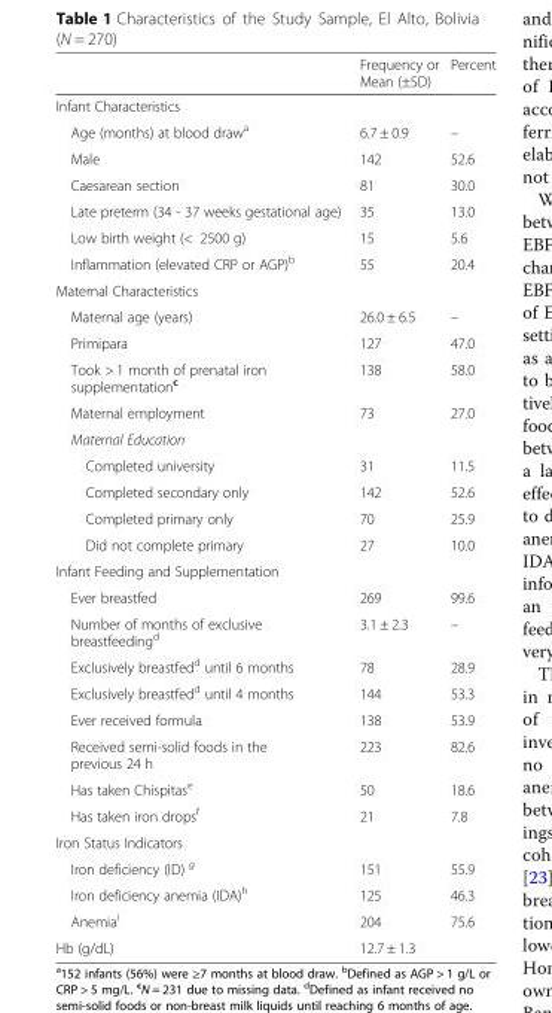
<table><thead><tr><td></td><td>Frequency or Mean (±SD)</td><td>Percent</td></tr></thead><tbody><tr><td colspan="3">Infant Characteristics</td></tr><tr><td>Age (months) at blood draw<sup>a</sup></td><td>6.7 ± 0.9</td><td>–</td></tr><tr><td>Male</td><td>142</td><td>52.6</td></tr><tr><td>Caesarean section</td><td>81</td><td>30.0</td></tr><tr><td>Late preterm (34 - 37 weeks gestational age)</td><td>35</td><td>13.0</td></tr><tr><td>Low birth weight (&lt; 2500 g)</td><td>15</td><td>5.6</td></tr><tr><td>Inflammation (elevated CRP or AGP)<sup>b</sup></td><td>55</td><td>20.4</td></tr><tr><td colspan="3">Maternal Characteristics</td></tr><tr><td>Maternal age (years)</td><td>26.0 ± 6.5</td><td>–</td></tr><tr><td>Primipara</td><td>127</td><td>47.0</td></tr><tr><td>Took &gt; 1 month of prenatal iron supplementation<sup>c</sup></td><td>138</td><td>58.0</td></tr><tr><td>Maternal employment</td><td>73</td><td>27.0</td></tr><tr><td colspan="3">Maternal Education</td></tr><tr><td>Completed university</td><td>31</td><td>11.5</td></tr><tr><td>Completed secondary only</td><td>142</td><td>52.6</td></tr><tr><td>Completed primary only</td><td>70</td><td>25.9</td></tr><tr><td>Did not complete primary</td><td>27</td><td>10.0</td></tr><tr><td colspan="3">Infant Feeding and Supplementation</td></tr><tr><td>Ever breastfed</td><td>269</td><td>99.6</td></tr><tr><td>Number of months of exclusive breastfeeding<sup>d</sup></td><td>3.1 ± 2.3</td><td>–</td></tr><tr><td>Exclusively breastfed<sup>d</sup> until 6 months</td><td>78</td><td>28.9</td></tr><tr><td>Exclusively breastfed<sup>d</sup> until 4 months</td><td>144</td><td>53.3</td></tr><tr><td>Ever received formula</td><td>138</td><td>53.9</td></tr><tr><td>Received semi-solid foods in the previous 24 h</td><td>223</td><td>82.6</td></tr><tr><td>Has taken Chispitas<sup>e</sup></td><td>50</td><td>18.6</td></tr><tr><td>Has taken iron drops<sup>f</sup></td><td>21</td><td>7.8</td></tr><tr><td colspan="3">Iron Status Indicators</td></tr><tr><td>Iron deficiency (ID) <sup>g</sup></td><td>151</td><td>55.9</td></tr><tr><td>Iron deficiency anemia (IDA)<sup>h</sup></td><td>125</td><td>46.3</td></tr><tr><td>Anemia<sup>i</sup></td><td>204</td><td>75.6</td></tr><tr><td>Hb (g/dL)</td><td>12.7 ± 1.3</td><td></td></tr></tbody></table>